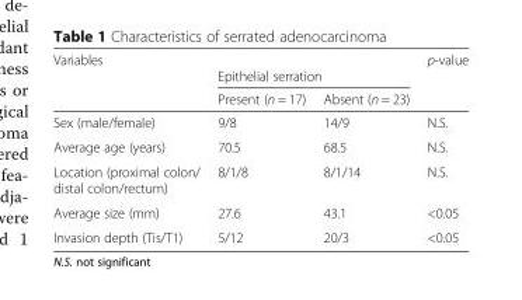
<table><thead><tr><td rowspan="2">Variables</td><td colspan="2">Epithelial serration</td><td rowspan="2">p-value</td></tr><tr><td>Present (n = 17)</td><td>Absent (n = 23)</td></tr></thead><tbody><tr><td>Sex (male/female)</td><td>9/8</td><td>14/9</td><td>N.S.</td></tr><tr><td>Average age (years)</td><td>70.5</td><td>68.5</td><td>N.S.</td></tr><tr><td>Location (proximal colon/ distal colon/rectum)</td><td>8/1/8</td><td>8/1/14</td><td>N.S.</td></tr><tr><td>Average size (mm)</td><td>27.6</td><td>43.1</td><td>&lt;0.05</td></tr><tr><td>Invasion depth (Tis/T1)</td><td>5/12</td><td>20/3</td><td>&lt;0.05</td></tr></tbody></table>